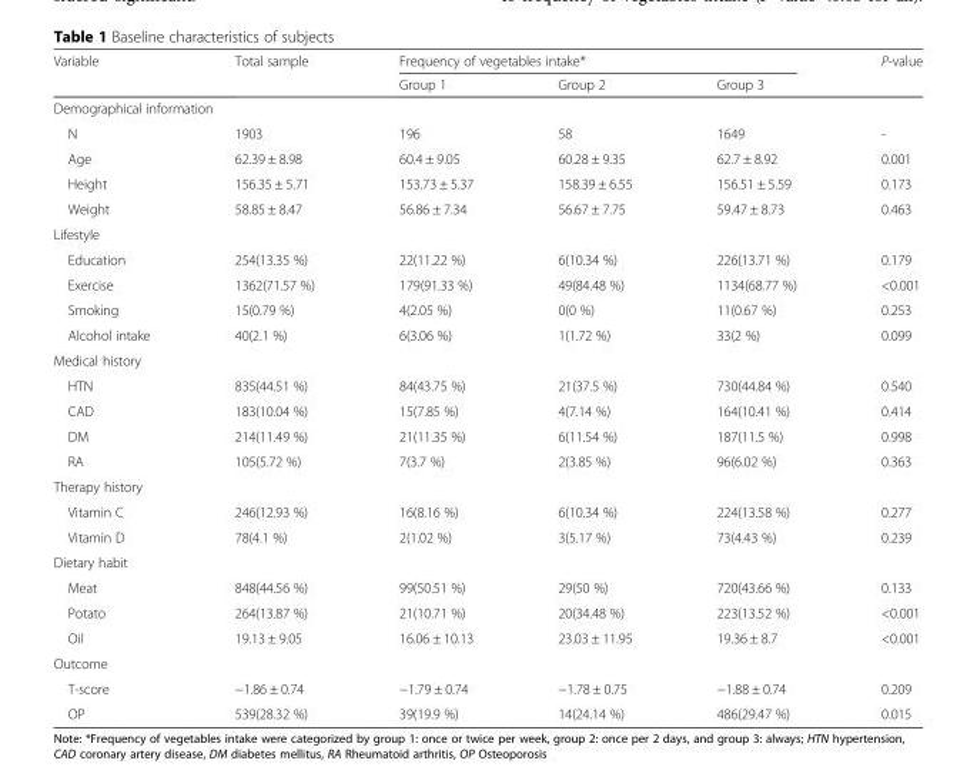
<table><thead><tr><td rowspan="2">Variable</td><td rowspan="2">Total sample</td><td colspan="3">Frequency of vegetables intake*</td><td rowspan="2">P-value</td></tr><tr><td>Group 1</td><td>Group 2</td><td>Group 3</td></tr></thead><tbody><tr><td colspan="6">Demographical information</td></tr><tr><td>N</td><td>1903</td><td>196</td><td>58</td><td>1649</td><td>-</td></tr><tr><td>Age</td><td>62.39 ± 8.98</td><td>60.4 ± 9.05</td><td>60.28 ± 9.35</td><td>62.7 ± 8.92</td><td>0.001</td></tr><tr><td>Height</td><td>156.35 ± 5.71</td><td>153.73 ± 5.37</td><td>158.39 ± 6.55</td><td>156.51 ± 5.59</td><td>0.173</td></tr><tr><td>Weight</td><td>58.85 ± 8.47</td><td>56.86 ± 7.34</td><td>56.67 ± 7.75</td><td>59.47 ± 8.73</td><td>0.463</td></tr><tr><td colspan="6">Lifestyle</td></tr><tr><td>Education</td><td>254(13.35 %)</td><td>22(11.22 %)</td><td>6(10.34 %)</td><td>226(13.71 %)</td><td>0.179</td></tr><tr><td>Exercise</td><td>1362(71.57 %)</td><td>179(91.33 %)</td><td>49(84.48 %)</td><td>1134(68.77 %)</td><td>&lt;0.001</td></tr><tr><td>Smoking</td><td>15(0.79 %)</td><td>4(2.05 %)</td><td>0(0 %)</td><td>11(0.67 %)</td><td>0.253</td></tr><tr><td>Alcohol intake</td><td>40(2.1 %)</td><td>6(3.06 %)</td><td>1(1.72 %)</td><td>33(2 %)</td><td>0.099</td></tr><tr><td colspan="6">Medical history</td></tr><tr><td>HTN</td><td>835(44.51 %)</td><td>84(43.75 %)</td><td>21(37.5 %)</td><td>730(44.84 %)</td><td>0.540</td></tr><tr><td>CAD</td><td>183(10.04 %)</td><td>15(7.85 %)</td><td>4(7.14 %)</td><td>164(10.41 %)</td><td>0.414</td></tr><tr><td>DM</td><td>214(11.49 %)</td><td>21(11.35 %)</td><td>6(11.54 %)</td><td>187(11.5 %)</td><td>0.998</td></tr><tr><td>RA</td><td>105(5.72 %)</td><td>7(3.7 %)</td><td>2(3.85 %)</td><td>96(6.02 %)</td><td>0.363</td></tr><tr><td colspan="6">Therapy history</td></tr><tr><td>Vitamin C</td><td>246(12.93 %)</td><td>16(8.16 %)</td><td>6(10.34 %)</td><td>224(13.58 %)</td><td>0.277</td></tr><tr><td>Vitamin D</td><td>78(4.1 %)</td><td>2(1.02 %)</td><td>3(5.17 %)</td><td>73(4.43 %)</td><td>0.239</td></tr><tr><td colspan="6">Dietary habit</td></tr><tr><td>Meat</td><td>848(44.56 %)</td><td>99(50.51 %)</td><td>29(50 %)</td><td>720(43.66 %)</td><td>0.133</td></tr><tr><td>Potato</td><td>264(13.87 %)</td><td>21(10.71 %)</td><td>20(34.48 %)</td><td>223(13.52 %)</td><td>&lt;0.001</td></tr><tr><td>Oil</td><td>19.13 ± 9.05</td><td>16.06 ± 10.13</td><td>23.03 ± 11.95</td><td>19.36 ± 8.7</td><td>&lt;0.001</td></tr><tr><td colspan="6">Outcome</td></tr><tr><td>T-score</td><td>−1.86 ± 0.74</td><td>−1.79 ± 0.74</td><td>−1.78 ± 0.75</td><td>−1.88 ± 0.74</td><td>0.209</td></tr><tr><td>OP</td><td>539(28.32 %)</td><td>39(19.9 %)</td><td>14(24.14 %)</td><td>486(29.47 %)</td><td>0.015</td></tr></tbody></table>